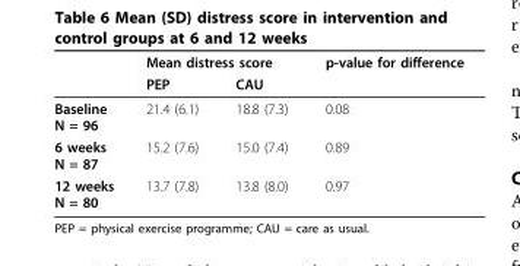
<table><thead><tr><td rowspan="2"></td><td colspan="2">Mean distress score</td><td rowspan="2">p-value for difference</td></tr><tr><td>PEP</td><td>CAU</td></tr></thead><tbody><tr><td>Baseline N = 96</td><td>21.4 (6.1)</td><td>18.8 (7.3)</td><td>0.08</td></tr><tr><td>6 weeks N = 87</td><td>15.2 (7.6)</td><td>15.0 (7.4)</td><td>0.89</td></tr><tr><td>12 weeks N = 80</td><td>13.7 (7.8)</td><td>13.8 (8.0)</td><td>0.97</td></tr></tbody></table>